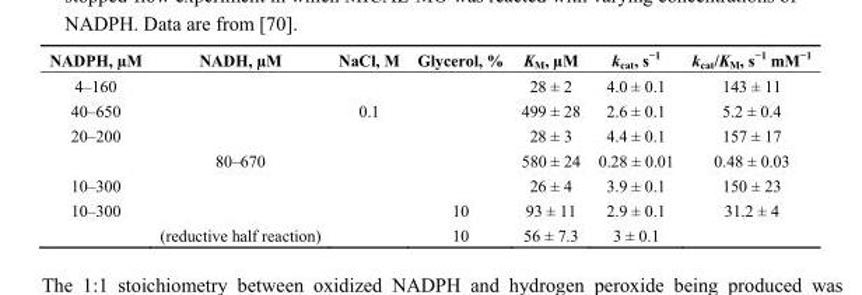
<table><thead><tr><td>NADPH, µM</td><td>NADH, µM</td><td>NaCl, M</td><td>Glycerol, %</td><td>K<sub>M</sub>, µM</td><td>k<sub>cat</sub>, s<sup>−1</sup></td><td>k<sub>cat</sub>/K<sub>M</sub>, s<sup>−1</sup> mM<sup>−1</sup></td></tr></thead><tbody><tr><td>4–160</td><td></td><td></td><td></td><td>28 ± 2</td><td>4.0 ± 0.1</td><td>143 ± 11</td></tr><tr><td>40–650</td><td></td><td>0.1</td><td></td><td>499 ± 28</td><td>2.6 ± 0.1</td><td>5.2 ± 0.4</td></tr><tr><td rowspan="2">20–200</td><td></td><td></td><td></td><td>28 ± 3</td><td>4.4 ± 0.1</td><td>157 ± 17</td></tr><tr><td>80–670</td><td></td><td></td><td>580 ± 24</td><td>0.28 ± 0.01</td><td>0.48 ± 0.03</td></tr><tr><td>10–300</td><td></td><td></td><td></td><td>26 ± 4</td><td>3.9 ± 0.1</td><td>150 ± 23</td></tr><tr><td rowspan="2">10–300</td><td></td><td></td><td>10</td><td>93 ± 11</td><td>2.9 ± 0.1</td><td>31.2 ± 4</td></tr><tr><td>(reductive half reaction)</td><td></td><td>10</td><td>56 ± 7.3</td><td>3 ± 0.1</td><td></td></tr></tbody></table>